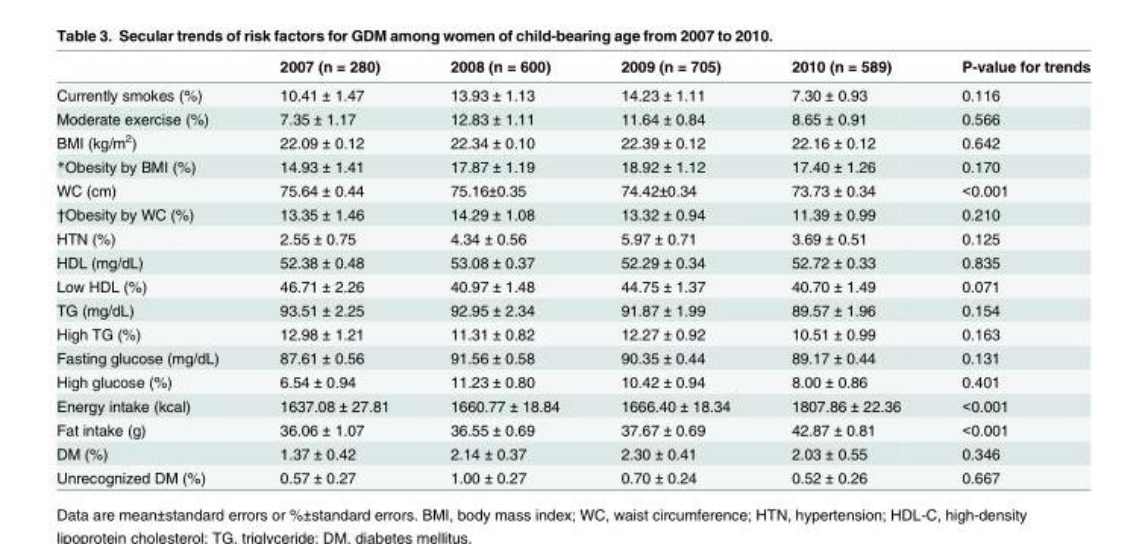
<table><thead><tr><td></td><td>2007 (n = 280)</td><td>2008 (n = 600)</td><td>2009 (n = 705)</td><td>2010 (n = 589)</td><td>P-value for trends</td></tr></thead><tbody><tr><td>Currently smokes (%)</td><td>10.41 ± 1.47</td><td>13.93 ± 1.13</td><td>14.23 ± 1.11</td><td>7.30 ± 0.93</td><td>0.116</td></tr><tr><td>Moderate exercise (%)</td><td>7.35 ± 1.17</td><td>12.83 ± 1.11</td><td>11.64 ± 0.84</td><td>8.65 ± 0.91</td><td>0.566</td></tr><tr><td>BMI (kg/m<sup>2</sup>)</td><td>22.09 ± 0.12</td><td>22.34 ± 0.10</td><td>22.39 ± 0.12</td><td>22.16 ± 0.12</td><td>0.642</td></tr><tr><td>*Obesity by BMI (%)</td><td>14.93 ± 1.41</td><td>17.87 ± 1.19</td><td>18.92 ± 1.12</td><td>17.40 ± 1.26</td><td>0.170</td></tr><tr><td>WC (cm)</td><td>75.64 ± 0.44</td><td>75.16±0.35</td><td>74.42±0.34</td><td>73.73 ± 0.34</td><td>&lt;0.001</td></tr><tr><td>†Obesity by WC (%)</td><td>13.35 ± 1.46</td><td>14.29 ± 1.08</td><td>13.32 ± 0.94</td><td>11.39 ± 0.99</td><td>0.210</td></tr><tr><td>HTN (%)</td><td>2.55 ± 0.75</td><td>4.34 ± 0.56</td><td>5.97 ± 0.71</td><td>3.69 ± 0.51</td><td>0.125</td></tr><tr><td>HDL (mg/dL)</td><td>52.38 ± 0.48</td><td>53.08 ± 0.37</td><td>52.29 ± 0.34</td><td>52.72 ± 0.33</td><td>0.835</td></tr><tr><td>Low HDL (%)</td><td>46.71 ± 2.26</td><td>40.97 ± 1.48</td><td>44.75 ± 1.37</td><td>40.70 ± 1.49</td><td>0.071</td></tr><tr><td>TG (mg/dL)</td><td>93.51 ± 2.25</td><td>92.95 ± 2.34</td><td>91.87 ± 1.99</td><td>89.57 ± 1.96</td><td>0.154</td></tr><tr><td>High TG (%)</td><td>12.98 ± 1.21</td><td>11.31 ± 0.82</td><td>12.27 ± 0.92</td><td>10.51 ± 0.99</td><td>0.163</td></tr><tr><td>Fasting glucose (mg/dL)</td><td>87.61 ± 0.56</td><td>91.56 ± 0.58</td><td>90.35 ± 0.44</td><td>89.17 ± 0.44</td><td>0.131</td></tr><tr><td>High glucose (%)</td><td>6.54 ± 0.94</td><td>11.23 ± 0.80</td><td>10.42 ± 0.94</td><td>8.00 ± 0.86</td><td>0.401</td></tr><tr><td>Energy intake (kcal)</td><td>1637.08 ± 27.81</td><td>1660.77 ± 18.84</td><td>1666.40 ± 18.34</td><td>1807.86 ± 22.36</td><td>&lt;0.001</td></tr><tr><td>Fat intake (g)</td><td>36.06 ± 1.07</td><td>36.55 ± 0.69</td><td>37.67 ± 0.69</td><td>42.87 ± 0.81</td><td>&lt;0.001</td></tr><tr><td>DM (%)</td><td>1.37 ± 0.42</td><td>2.14 ± 0.37</td><td>2.30 ± 0.41</td><td>2.03 ± 0.55</td><td>0.346</td></tr><tr><td>Unrecognized DM (%)</td><td>0.57 ± 0.27</td><td>1.00 ± 0.27</td><td>0.70 ± 0.24</td><td>0.52 ± 0.26</td><td>0.667</td></tr></tbody></table>